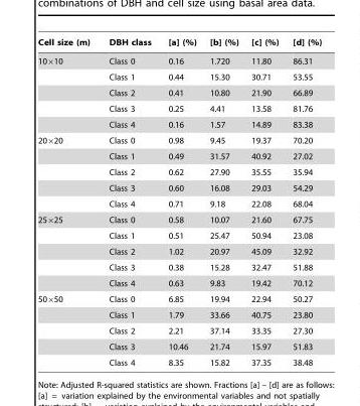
<table><thead><tr><td>Cell size (m)</td><td>DBH class</td><td>[a] (%)</td><td>[b] (%)</td><td>[c] (%)</td><td>[d] (%)</td></tr></thead><tbody><tr><td rowspan="5">10×10</td><td>Class 0</td><td>0.16</td><td>1.720</td><td>11.80</td><td>86.31</td></tr><tr><td>Class 1</td><td>0.44</td><td>15.30</td><td>30.71</td><td>53.55</td></tr><tr><td>Class 2</td><td>0.41</td><td>10.80</td><td>21.90</td><td>66.89</td></tr><tr><td>Class 3</td><td>0.25</td><td>4.41</td><td>13.58</td><td>81.76</td></tr><tr><td>Class 4</td><td>0.16</td><td>1.57</td><td>14.89</td><td>83.38</td></tr><tr><td rowspan="5">20×20</td><td>Class 0</td><td>0.98</td><td>9.45</td><td>19.37</td><td>70.20</td></tr><tr><td>Class 1</td><td>0.49</td><td>31.57</td><td>40.92</td><td>27.02</td></tr><tr><td>Class 2</td><td>0.62</td><td>27.90</td><td>35.55</td><td>35.94</td></tr><tr><td>Class 3</td><td>0.60</td><td>16.08</td><td>29.03</td><td>54.29</td></tr><tr><td>Class 4</td><td>0.71</td><td>9.18</td><td>22.08</td><td>68.04</td></tr><tr><td rowspan="5">25×25</td><td>Class 0</td><td>0.58</td><td>10.07</td><td>21.60</td><td>67.75</td></tr><tr><td>Class 1</td><td>0.51</td><td>25.47</td><td>50.94</td><td>23.08</td></tr><tr><td>Class 2</td><td>1.02</td><td>20.97</td><td>45.09</td><td>32.92</td></tr><tr><td>Class 3</td><td>0.38</td><td>15.28</td><td>32.47</td><td>51.88</td></tr><tr><td>Class 4</td><td>0.63</td><td>9.83</td><td>19.42</td><td>70.12</td></tr><tr><td rowspan="5">50×50</td><td>Class 0</td><td>6.85</td><td>19.94</td><td>22.94</td><td>50.27</td></tr><tr><td>Class 1</td><td>1.79</td><td>33.66</td><td>40.75</td><td>23.80</td></tr><tr><td>Class 2</td><td>2.21</td><td>37.14</td><td>33.35</td><td>27.30</td></tr><tr><td>Class 3</td><td>10.46</td><td>21.74</td><td>15.97</td><td>51.83</td></tr><tr><td>Class 4</td><td>8.35</td><td>15.82</td><td>37.35</td><td>38.48</td></tr></tbody></table>